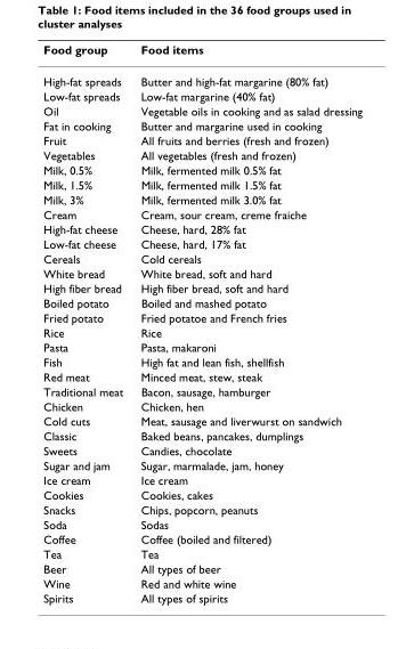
<table><thead><tr><td>Food group</td><td>Food items</td></tr></thead><tbody><tr><td>High-fat spreads</td><td>Butter and high-fat margarine (80% fat)</td></tr><tr><td>Low-fat spreads</td><td>Low-fat margarine (40% fat)</td></tr><tr><td>Oil</td><td>Vegetable oils in cooking and as salad dressing</td></tr><tr><td>Fat in cooking</td><td>Butter and margarine used in cooking</td></tr><tr><td>Fruit</td><td>All fruits and berries (fresh and frozen)</td></tr><tr><td>Vegetables</td><td>All vegetables (fresh and frozen)</td></tr><tr><td>Milk, 0.5%</td><td>Milk, fermented milk 0.5% fat</td></tr><tr><td>Milk, 1.5%</td><td>Milk, fermented milk 1.5% fat</td></tr><tr><td>Milk, 3%</td><td>Milk, fermented milk 3.0% fat</td></tr><tr><td>Cream</td><td>Cream, sour cream, creme fraiche</td></tr><tr><td>High-fat cheese</td><td>Cheese, hard, 28% fat</td></tr><tr><td>Low-fat cheese</td><td>Cheese, hard, 17% fat</td></tr><tr><td>Cereals</td><td>Cold cereals</td></tr><tr><td>White bread</td><td>White bread, soft and hard</td></tr><tr><td>High fiber bread</td><td>High fiber bread, soft and hard</td></tr><tr><td>Boiled potato</td><td>Boiled and mashed potato</td></tr><tr><td>Fried potato</td><td>Fried potatoe and French fries</td></tr><tr><td>Rice</td><td>Rice</td></tr><tr><td>Pasta</td><td>Pasta, makaroni</td></tr><tr><td>Fish</td><td>High fat and lean fish, shellfish</td></tr><tr><td>Red meat</td><td>Minced meat, stew, steak</td></tr><tr><td>Traditional meat</td><td>Bacon, sausage, hamburger</td></tr><tr><td>Chicken</td><td>Chicken, hen</td></tr><tr><td>Cold cuts</td><td>Meat, sausage and liverwurst on sandwich</td></tr><tr><td>Classic</td><td>Baked beans, pancakes, dumplings</td></tr><tr><td>Sweets</td><td>Candies, chocolate</td></tr><tr><td>Sugar and jam</td><td>Sugar, marmalade, jam, honey</td></tr><tr><td>Ice cream</td><td>Ice cream</td></tr><tr><td>Cookies</td><td>Cookies, cakes</td></tr><tr><td>Snacks</td><td>Chips, popcorn, peanuts</td></tr><tr><td>Soda</td><td>Sodas</td></tr><tr><td>Coffee</td><td>Coffee (boiled and filtered)</td></tr><tr><td>Tea</td><td>Tea</td></tr><tr><td>Beer</td><td>All types of beer</td></tr><tr><td>Wine</td><td>Red and white wine</td></tr><tr><td>Spirits</td><td>All types of spirits</td></tr></tbody></table>